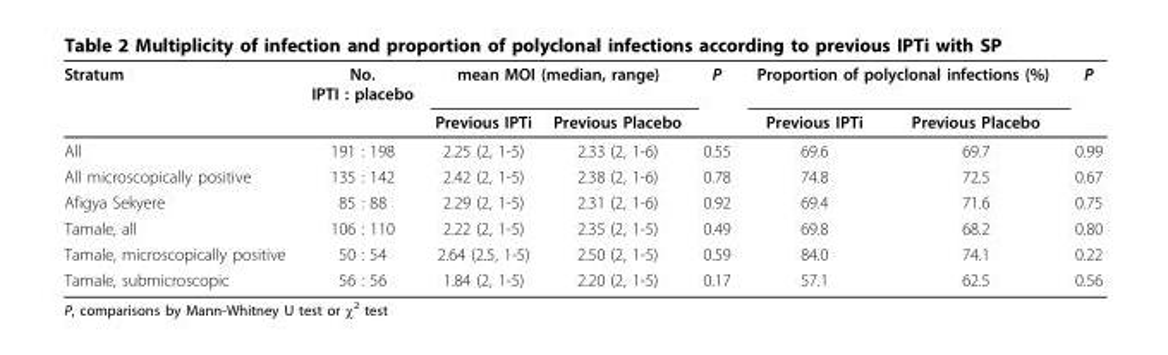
<table><thead><tr><td rowspan="2">Stratum</td><td rowspan="2">No. IPTI : placebo</td><td colspan="2">mean MOI (median, range)</td><td rowspan="2">P</td><td colspan="2">Proportion of polyclonal infections (%)</td><td rowspan="2">P</td></tr><tr><td>Previous IPTi</td><td>Previous Placebo</td><td>Previous IPTi</td><td>Previous Placebo</td></tr></thead><tbody><tr><td>All</td><td>191 : 198</td><td>2.25 (2, 1-5)</td><td>2.33 (2, 1-6)</td><td>0.55</td><td>69.6</td><td>69.7</td><td>0.99</td></tr><tr><td>All microscopically positive</td><td>135 : 142</td><td>2.42 (2, 1-5)</td><td>2.38 (2, 1-6)</td><td>0.78</td><td>74.8</td><td>72.5</td><td>0.67</td></tr><tr><td>Afigya Sekyere</td><td>85 : 88</td><td>2.29 (2, 1-5)</td><td>2.31 (2, 1-6)</td><td>0.92</td><td>69.4</td><td>71.6</td><td>0.75</td></tr><tr><td>Tamale, all</td><td>106 : 110</td><td>2.22 (2, 1-5)</td><td>2.35 (2, 1-5)</td><td>0.49</td><td>69.8</td><td>68.2</td><td>0.80</td></tr><tr><td>Tamale, microscopically positive</td><td>50 : 54</td><td>2.64 (2.5, 1-5)</td><td>2.50 (2, 1-5)</td><td>0.59</td><td>84.0</td><td>74.1</td><td>0.22</td></tr><tr><td>Tamale, submicroscopic</td><td>56 : 56</td><td>1.84 (2, 1-5)</td><td>2.20 (2, 1-5)</td><td>0.17</td><td>57.1</td><td>62.5</td><td>0.56</td></tr></tbody></table>